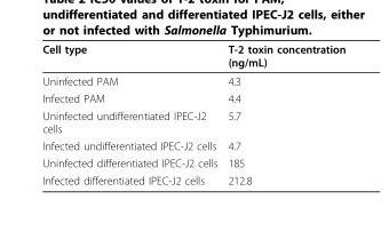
<table><thead><tr><td>Cell type</td><td>T-2 toxin concentration (ng/mL)</td></tr></thead><tbody><tr><td>Uninfected PAM</td><td>4.3</td></tr><tr><td>Infected PAM</td><td>4.4</td></tr><tr><td>Uninfected undifferentiated IPEC-J2 cells</td><td>5.7</td></tr><tr><td>Infected undifferentiated IPEC-J2 cells</td><td>4.7</td></tr><tr><td>Uninfected differentiated IPEC-J2 cells</td><td>185</td></tr><tr><td>Infected differentiated IPEC-J2 cells</td><td>212.8</td></tr></tbody></table>